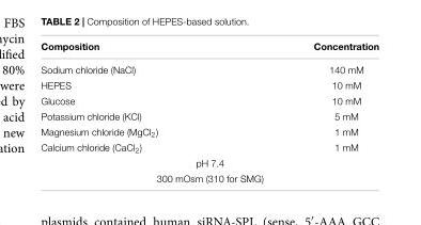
<table><thead><tr><td>Composition</td><td>Concentration</td></tr></thead><tbody><tr><td>Sodium chloride (NaCl)</td><td>140 mM</td></tr><tr><td>HEPES</td><td>10 mM</td></tr><tr><td>Glucose</td><td>10 mM</td></tr><tr><td>Potassium chloride (KCl)</td><td>5 mM</td></tr><tr><td>Magnesium chloride (MgCl<sub>2</sub>)</td><td>1 mM</td></tr><tr><td>Calcium chloride (CaCl<sub>2</sub>)</td><td>1 mM</td></tr><tr><td colspan="2">pH 7.4</td></tr><tr><td colspan="2">300 mOsm (310 for SMG)</td></tr></tbody></table>